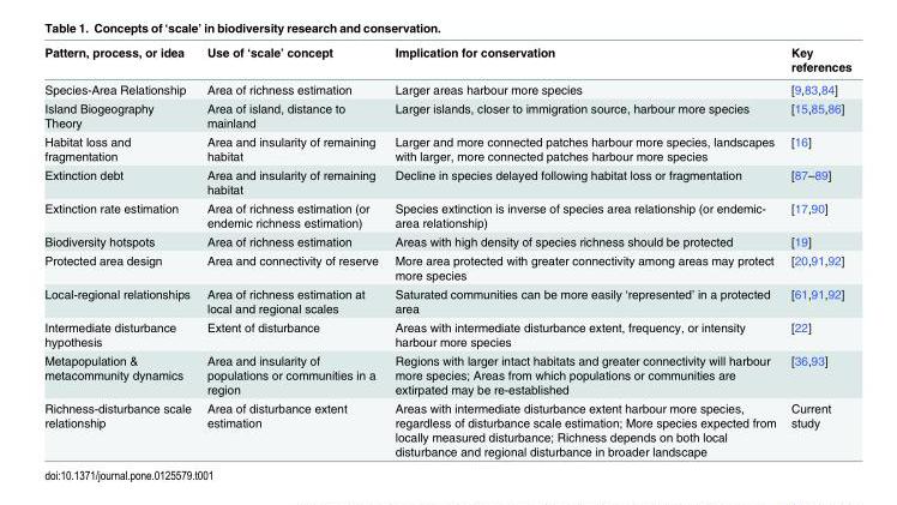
<table><thead><tr><td>Pattern, process, or idea</td><td>Use of ‘scale’ concept</td><td>Implication for conservation</td><td>Key references</td></tr></thead><tbody><tr><td>Species-Area Relationship</td><td>Area of richness estimation</td><td>Larger areas harbour more species</td><td>[9,83,84]</td></tr><tr><td>Island Biogeography Theory</td><td>Area of island, distance to mainland</td><td>Larger islands, closer to immigration source, harbour more species</td><td>[15,85,86]</td></tr><tr><td>Habitat loss and fragmentation</td><td>Area and insularity of remaining habitat</td><td>Larger and more connected patches harbour more species, landscapes with larger, more connected patches harbour more species</td><td>[16]</td></tr><tr><td>Extinction debt</td><td>Area and insularity of remaining habitat</td><td>Decline in species delayed following habitat loss or fragmentation</td><td>[87–89]</td></tr><tr><td>Extinction rate estimation</td><td>Area of richness estimation (or endemic richness estimation)</td><td>Species extinction is inverse of species area relationship (or endemic- area relationship)</td><td>[17,90]</td></tr><tr><td>Biodiversity hotspots</td><td>Area of richness estimation</td><td>Areas with high density of species richness should be protected</td><td>[19]</td></tr><tr><td>Protected area design</td><td>Area and connectivity of reserve</td><td>More area protected with greater connectivity among areas may protect more species</td><td>[20,91,92]</td></tr><tr><td>Local-regional relationships</td><td>Area of richness estimation at local and regional scales</td><td>Saturated communities can be more easily ‘represented’ in a protected area</td><td>[61,91,92]</td></tr><tr><td>Intermediate disturbance hypothesis</td><td>Extent of disturbance</td><td>Areas with intermediate disturbance extent, frequency, or intensity harbour more species</td><td>[22]</td></tr><tr><td>Metapopulation &amp; metacommunity dynamics</td><td>Area and insularity of populations or communities in a region</td><td>Regions with larger intact habitats and greater connectivity will harbour more species; Areas from which populations or communities are extirpated may be re-established</td><td>[36,93]</td></tr><tr><td>Richness-disturbance scale relationship</td><td>Area of disturbance extent estimation</td><td>Areas with intermediate disturbance extent harbour more species, regardless of disturbance scale estimation; More species expected from locally measured disturbance; Richness depends on both local disturbance and regional disturbance in broader landscape</td><td>Current study</td></tr></tbody></table>